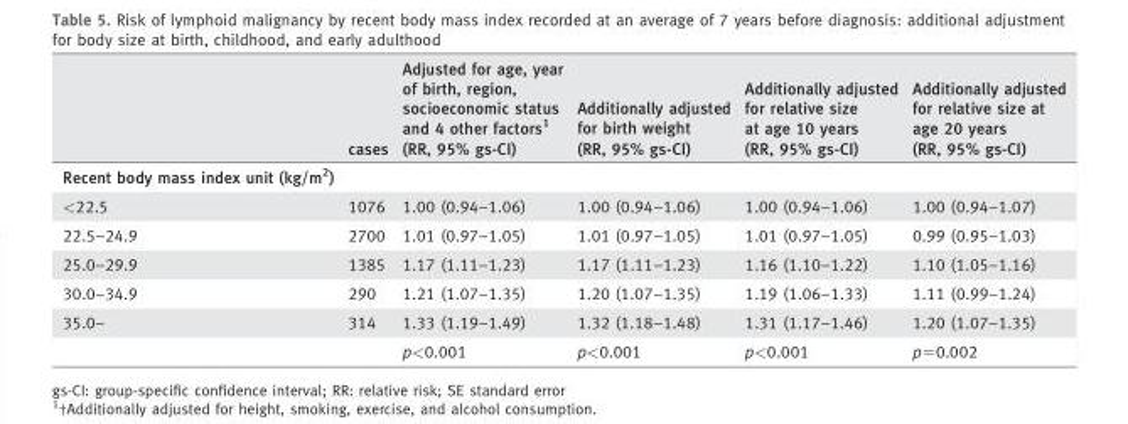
<table><thead><tr><td rowspan="2"></td><td rowspan="2">cases</td><td rowspan="2">Adjusted for age, year of birth, region, socioeconomic status and 4 other factors1 (RR, 95% gs-CI)</td><td rowspan="2">Additionally adjusted for birth weight (RR, 95% gs-CI)</td><td rowspan="2">Additionally adjusted for relative size at age 10 years (RR, 95% gs-CI)</td><td rowspan="2">Additionally adjusted for relative size at age 20 years (RR, 95% gs-CI)</td></tr><tr></tr></thead><tbody><tr><td colspan="6">Recent body mass index unit (kg/m<sup>2</sup>)</td></tr><tr><td>&lt;22.5</td><td>1076</td><td>1.00 (0.94–1.06)</td><td>1.00 (0.94–1.06)</td><td>1.00 (0.94–1.06)</td><td>1.00 (0.94–1.07)</td></tr><tr><td>22.5–24.9</td><td>2700</td><td>1.01 (0.97–1.05)</td><td>1.01 (0.97–1.05)</td><td>1.01 (0.97–1.05)</td><td>0.99 (0.95–1.03)</td></tr><tr><td>25.0–29.9</td><td>1385</td><td>1.17 (1.11–1.23)</td><td>1.17 (1.11–1.23)</td><td>1.16 (1.10–1.22)</td><td>1.10 (1.05–1.16)</td></tr><tr><td>30.0–34.9</td><td>290</td><td>1.21 (1.07–1.35)</td><td>1.20 (1.07–1.35)</td><td>1.19 (1.06–1.33)</td><td>1.11 (0.99–1.24)</td></tr><tr><td rowspan="2">35.0–</td><td>314</td><td>1.33 (1.19–1.49)</td><td>1.32 (1.18–1.48)</td><td>1.31 (1.17–1.46)</td><td>1.20 (1.07–1.35)</td></tr><tr><td></td><td>p&lt;0.001</td><td>p&lt;0.001</td><td>p&lt;0.001</td><td>p=0.002</td></tr></tbody></table>